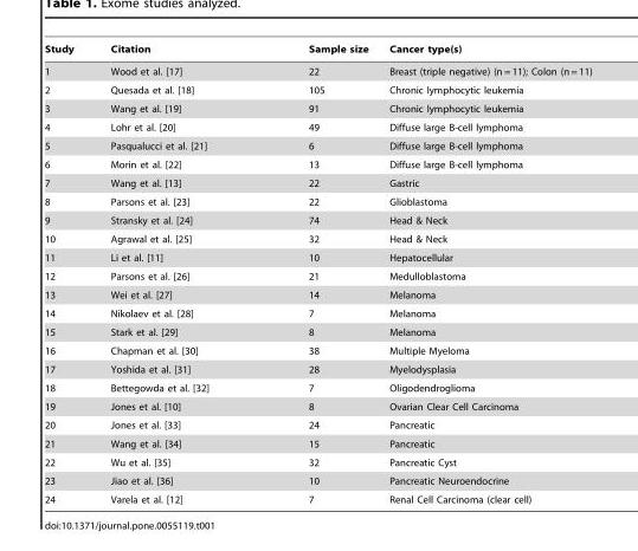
<table><thead><tr><td>Study</td><td>Citation</td><td>Sample size</td><td>Cancer type(s)</td></tr></thead><tbody><tr><td>1</td><td>Wood et al. [17]</td><td>22</td><td>Breast (triple negative) (n = 11); Colon (n = 11)</td></tr><tr><td>2</td><td>Quesada et al. [18]</td><td>105</td><td>Chronic lymphocytic leukemia</td></tr><tr><td>3</td><td>Wang et al. [19]</td><td>91</td><td>Chronic lymphocytic leukemia</td></tr><tr><td>4</td><td>Lohr et al. [20]</td><td>49</td><td>Diffuse large B-cell lymphoma</td></tr><tr><td>5</td><td>Pasqualucci et al. [21]</td><td>6</td><td>Diffuse large B-cell lymphoma</td></tr><tr><td>6</td><td>Morin et al. [22]</td><td>13</td><td>Diffuse large B-cell lymphoma</td></tr><tr><td>7</td><td>Wang et al. [13]</td><td>22</td><td>Gastric</td></tr><tr><td>8</td><td>Parsons et al. [23]</td><td>22</td><td>Glioblastoma</td></tr><tr><td>9</td><td>Stransky et al. [24]</td><td>74</td><td>Head &amp; Neck</td></tr><tr><td>10</td><td>Agrawal et al. [25]</td><td>32</td><td>Head &amp; Neck</td></tr><tr><td>11</td><td>Li et al. [11]</td><td>10</td><td>Hepatocellular</td></tr><tr><td>12</td><td>Parsons et al. [26]</td><td>21</td><td>Medulloblastoma</td></tr><tr><td>13</td><td>Wei et al. [27]</td><td>14</td><td>Melanoma</td></tr><tr><td>14</td><td>Nikolaev et al. [28]</td><td>7</td><td>Melanoma</td></tr><tr><td>15</td><td>Stark et al. [29]</td><td>8</td><td>Melanoma</td></tr><tr><td>16</td><td>Chapman et al. [30]</td><td>38</td><td>Multiple Myeloma</td></tr><tr><td>17</td><td>Yoshida et al. [31]</td><td>28</td><td>Myelodysplasia</td></tr><tr><td>18</td><td>Bettegowda et al. [32]</td><td>7</td><td>Oligodendroglioma</td></tr><tr><td>19</td><td>Jones et al. [10]</td><td>8</td><td>Ovarian Clear Cell Carcinoma</td></tr><tr><td>20</td><td>Jones et al. [33]</td><td>24</td><td>Pancreatic</td></tr><tr><td>21</td><td>Wang et al. [34]</td><td>15</td><td>Pancreatic</td></tr><tr><td>22</td><td>Wu et al. [35]</td><td>32</td><td>Pancreatic Cyst</td></tr><tr><td>23</td><td>Jiao et al. [36]</td><td>10</td><td>Pancreatic Neuroendocrine</td></tr><tr><td>24</td><td>Varela et al. [12]</td><td>7</td><td>Renal Cell Carcinoma (clear cell)</td></tr></tbody></table>